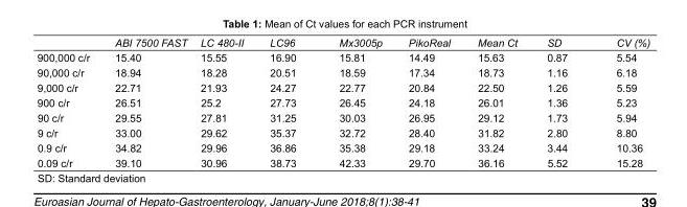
<table><thead><tr><td></td><td>ABI 7500 FAST</td><td>LC 480-II</td><td>LC96</td><td>Mx3005p</td><td>PikoReal</td><td>Mean Ct</td><td>SD</td><td>CV (%)</td></tr></thead><tbody><tr><td>900,000 c/r</td><td>15.40</td><td>15.55</td><td>16.90</td><td>15.81</td><td>14.49</td><td>15.63</td><td>0.87</td><td>5.54</td></tr><tr><td>90,000 c/r</td><td>18.94</td><td>18.28</td><td>20.51</td><td>18.59</td><td>17.34</td><td>18.73</td><td>1.16</td><td>6.18</td></tr><tr><td>9,000 c/r</td><td>22.71</td><td>21.93</td><td>24.27</td><td>22.77</td><td>20.84</td><td>22.50</td><td>1.26</td><td>5.59</td></tr><tr><td>900 c/r</td><td>26.51</td><td>25.2</td><td>27.73</td><td>26.45</td><td>24.18</td><td>26.01</td><td>1.36</td><td>5.23</td></tr><tr><td>90 c/r</td><td>29.55</td><td>27.81</td><td>31.25</td><td>30.03</td><td>26.95</td><td>29.12</td><td>1.73</td><td>5.94</td></tr><tr><td>9 c/r</td><td>33.00</td><td>29.62</td><td>35.37</td><td>32.72</td><td>28.40</td><td>31.82</td><td>2.80</td><td>8.80</td></tr><tr><td>0.9 c/r</td><td>34.82</td><td>29.96</td><td>36.86</td><td>35.38</td><td>29.18</td><td>33.24</td><td>3.44</td><td>10.36</td></tr><tr><td>0.09 c/r</td><td>39.10</td><td>30.96</td><td>38.73</td><td>42.33</td><td>29.70</td><td>36.16</td><td>5.52</td><td>15.28</td></tr></tbody></table>